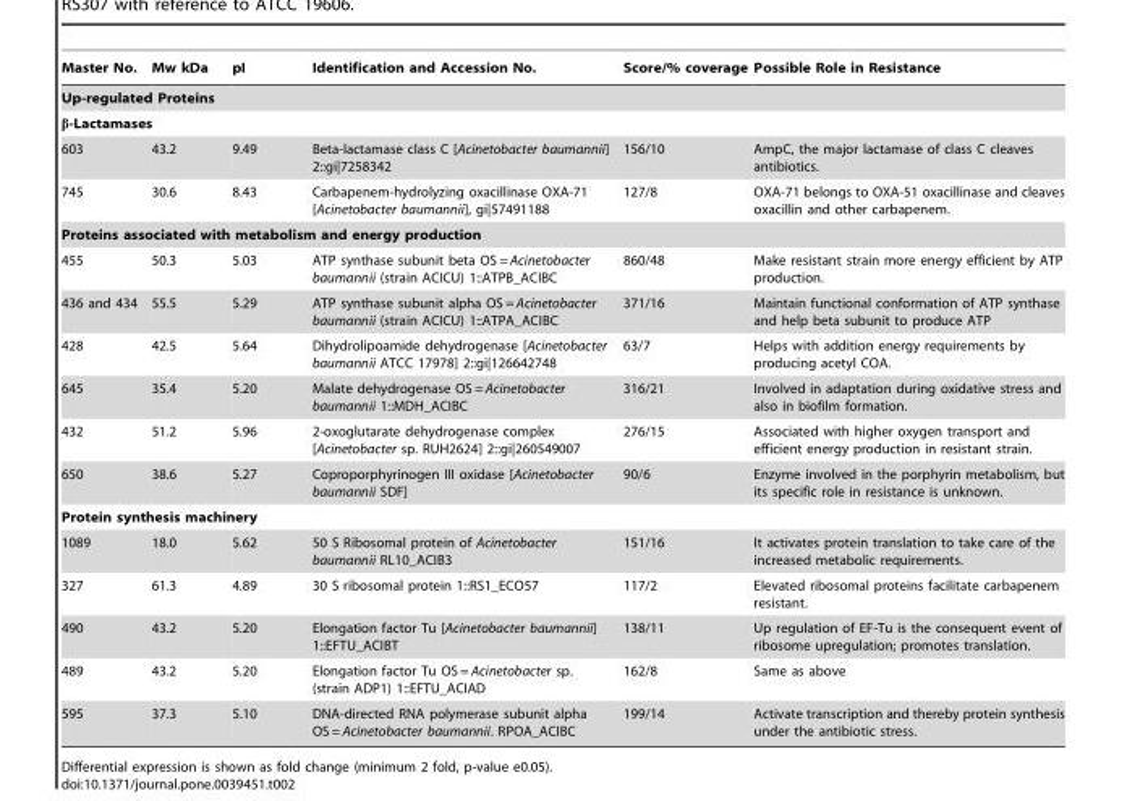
<table><thead><tr><td>Master No.</td><td>Mw kDa</td><td>pI</td><td>Identification and Accession No.</td><td>Score/% coverage</td><td>Possible Role in Resistance</td></tr></thead><tbody><tr><td colspan="6">Up-regulated Proteins</td></tr><tr><td colspan="6">β-Lactamases</td></tr><tr><td>603</td><td>43.2</td><td>9.49</td><td>Beta-lactamase class C [Acinetobacter baumannii] 2::gi|7258342</td><td>156/10</td><td>AmpC, the major lactamase of class C cleaves antibiotics.</td></tr><tr><td>745</td><td>30.6</td><td>8.43</td><td>Carbapenem-hydrolyzing oxacillinase OXA-71 [Acinetobacter baumannii], gi|57491188</td><td>127/8</td><td>OXA-71 belongs to OXA-51 oxacillinase and cleaves oxacillin and other carbapenem.</td></tr><tr><td colspan="6">Proteins associated with metabolism and energy production</td></tr><tr><td>455</td><td>50.3</td><td>5.03</td><td>ATP synthase subunit beta OS = Acinetobacter baumannii (strain ACICU) 1::ATPB_ACIBC</td><td>860/48</td><td>Make resistant strain more energy efficient by ATP production.</td></tr><tr><td>436 and 434</td><td>55.5</td><td>5.29</td><td>ATP synthase subunit alpha OS = Acinetobacter baumannii (strain ACICU) 1::ATPA_ACIBC</td><td>371/16</td><td>Maintain functional conformation of ATP synthase and help beta subunit to produce ATP</td></tr><tr><td>428</td><td>42.5</td><td>5.64</td><td>Dihydrolipoamide dehydrogenase [Acinetobacter baumannii ATCC 17978] 2::gi|126642748</td><td>63/7</td><td>Helps with addition energy requirements by producing acetyl COA.</td></tr><tr><td>645</td><td>35.4</td><td>5.20</td><td>Malate dehydrogenase OS = Acinetobacter baumannii 1::MDH_ACIBC</td><td>316/21</td><td>Involved in adaptation during oxidative stress and also in biofilm formation.</td></tr><tr><td>432</td><td>51.2</td><td>5.96</td><td>2-oxoglutarate dehydrogenase complex [Acinetobacter sp. RUH2624] 2::gi|260549007</td><td>276/15</td><td>Associated with higher oxygen transport and efficient energy production in resistant strain.</td></tr><tr><td>650</td><td>38.6</td><td>5.27</td><td>Coproporphyrinogen III oxidase [Acinetobacter baumannii SDF]</td><td>90/6</td><td>Enzyme involved in the porphyrin metabolism, but its specific role in resistance is unknown.</td></tr><tr><td colspan="6">Protein synthesis machinery</td></tr><tr><td>1089</td><td>18.0</td><td>5.62</td><td>50 S Ribosomal protein of Acinetobacter baumannii RL10_ACIB3</td><td>151/16</td><td>It activates protein translation to take care of the increased metabolic requirements.</td></tr><tr><td>327</td><td>61.3</td><td>4.89</td><td>30 S ribosomal protein 1::RS1_ECO57</td><td>117/2</td><td>Elevated ribosomal proteins facilitate carbapenem resistant.</td></tr><tr><td>490</td><td>43.2</td><td>5.20</td><td>Elongation factor Tu [Acinetobacter baumannii] 1::EFTU_ACIBT</td><td>138/11</td><td>Up regulation of EF-Tu is the consequent event of ribosome upregulation; promotes translation.</td></tr><tr><td>489</td><td>43.2</td><td>5.20</td><td>Elongation factor Tu OS = Acinetobacter sp. (strain ADP1) 1::EFTU_ACIAD</td><td>162/8</td><td>Same as above</td></tr><tr><td>595</td><td>37.3</td><td>5.10</td><td>DNA-directed RNA polymerase subunit alpha OS = Acinetobacter baumannii. RPOA_ACIBC</td><td>199/14</td><td>Activate transcription and thereby protein synthesis under the antibiotic stress.</td></tr></tbody></table>